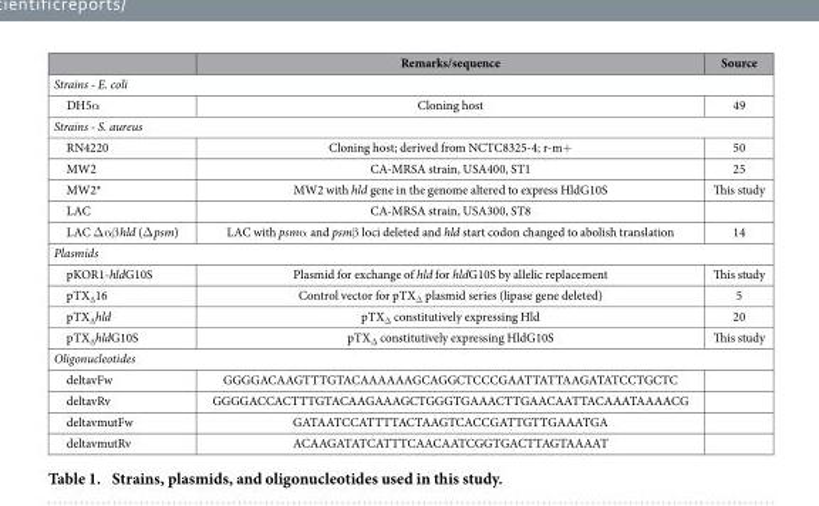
<table><thead><tr><td></td><td>Remarks/sequence</td><td>Source</td></tr></thead><tbody><tr><td colspan="3">Strains - E. coli</td></tr><tr><td>DH5α</td><td>Cloning host</td><td>49</td></tr><tr><td colspan="3">Strains - S. aureus</td></tr><tr><td>RN4220</td><td>Cloning host; derived from NCTC8325-4; r-m+</td><td>50</td></tr><tr><td>MW2</td><td>CA-MRSA strain, USA400, ST1</td><td>25</td></tr><tr><td>MW2*</td><td>MW2 with hld gene in the genome altered to express HldG10S</td><td>This study</td></tr><tr><td>LAC</td><td>CA-MRSA strain, USA300, ST8</td><td></td></tr><tr><td>LAC Δ α β hld (Δ psm)</td><td>LAC with psmα and psmβ loci deleted and hld start codon changed to abolish translation</td><td>14</td></tr><tr><td colspan="3">Plasmids</td></tr><tr><td>pKOR1-hldG10S</td><td>Plasmid for exchange of hld for hldG10S by allelic replacement</td><td>This study</td></tr><tr><td>pTX<sub>∆</sub>16</td><td>Control vector for pTX<sub>Δ</sub> plasmid series (lipase gene deleted)</td><td>5</td></tr><tr><td>pTX<sub>∆</sub>hld</td><td>pTX<sub>Δ</sub> constitutively expressing Hld</td><td>20</td></tr><tr><td>pTX<sub>∆</sub>hldG10S</td><td>pTX<sub>Δ</sub> constitutively expressing HldG10S</td><td>This study</td></tr><tr><td colspan="3">Oligonucleotides</td></tr><tr><td>deltavFw</td><td>GGGGACAAGTTTGTACAAAAAAGCAGGCTCCCGAATTATTAAGATATCCTGCTC</td><td></td></tr><tr><td>deltavRv</td><td>GGGGACCACTTTGTACAAGAAAGCTGGGTGAAACTTGAACAATTACAAATAAAACG</td><td></td></tr><tr><td>deltavmutFw</td><td>GATAATCCATTTTACTAAGTCACCGATTGTTGAAATGA</td><td></td></tr><tr><td>deltavmutRv</td><td>ACAAGATATCATTTCAACAATCGGTGACTTAGTAAAAT</td><td></td></tr></tbody></table>